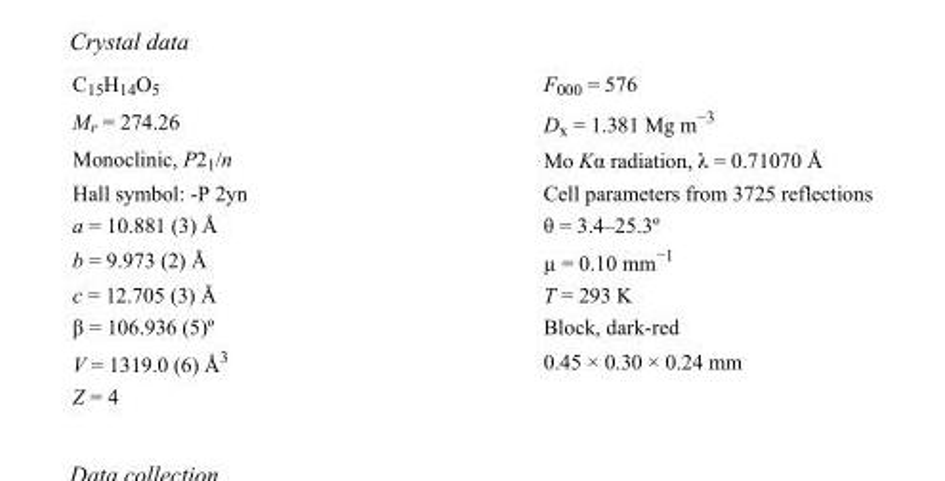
<table><tbody><tr><td>C<sub>15</sub>H<sub>14</sub>O<sub>5</sub></td><td>F000 = 576</td></tr><tr><td>M<sub>r</sub> = 274.26</td><td>D<sub>x</sub> = 1.381 Mg m<sup>−3</sup></td></tr><tr><td>Monoclinic, P2<sub>1</sub>/n</td><td>Mo Kα radiation, λ = 0.71070 Å</td></tr><tr><td>Hall symbol: -P 2yn</td><td>Cell parameters from 3725 reflections</td></tr><tr><td>a = 10.881 (3) Å</td><td>θ = 3.4–25.3º</td></tr><tr><td>b = 9.973 (2) Å</td><td>µ = 0.10 mm<sup>−1</sup></td></tr><tr><td>c = 12.705 (3) Å</td><td>T = 293 K</td></tr><tr><td>β = 106.936 (5)º</td><td>Block, dark-red</td></tr><tr><td>V = 1319.0 (6) Å<sup>3</sup></td><td>0.45 × 0.30 × 0.24 mm</td></tr><tr><td>Z = 4</td><td></td></tr></tbody></table>